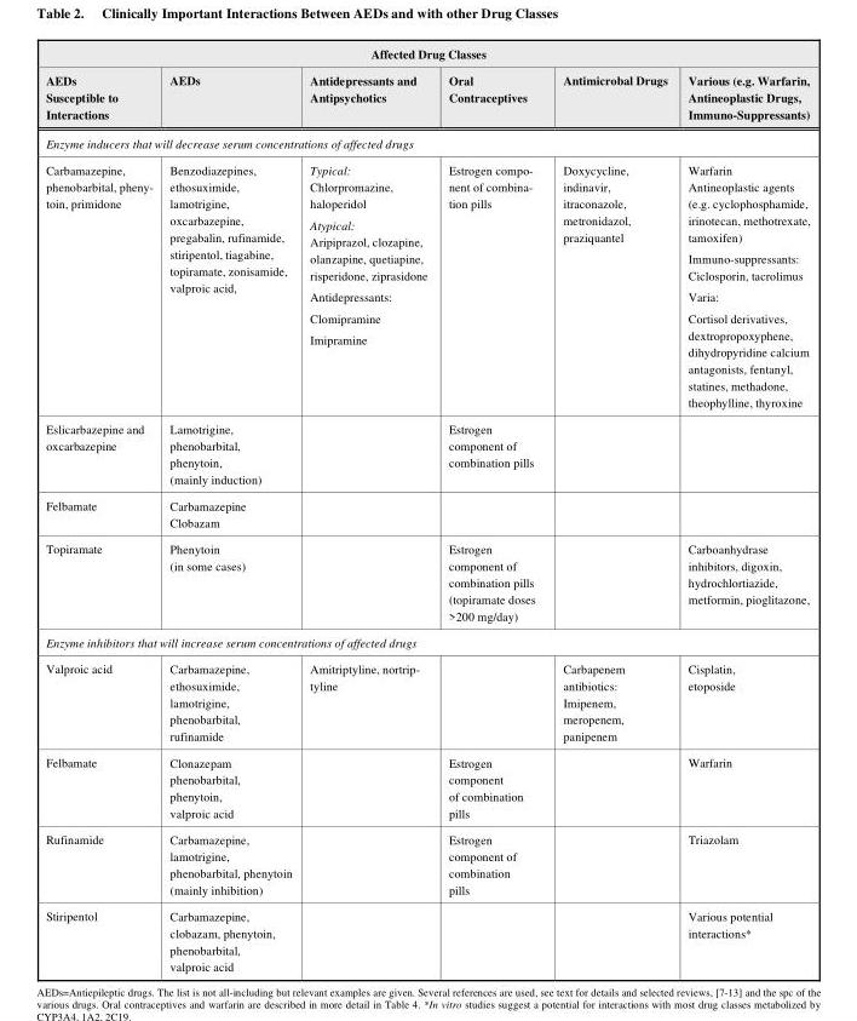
<table><thead><tr><td colspan="6">Affected Drug Classes</td></tr><tr><td>AEDs Susceptible to Interactions</td><td>AEDs</td><td>Antidepressants and Antipsychotics</td><td>Oral Contraceptives</td><td>Antimicrobal Drugs</td><td>Various (e.g. Warfarin, Antineoplastic Drugs, Immuno-Suppressants)</td></tr></thead><tbody><tr><td colspan="6">Enzyme inducers that will decrease serum concentrations of affected drugs</td></tr><tr><td>Carbamazepine, phenobarbital, pheny- toin, primidone</td><td>Benzodiazepines, ethosuximide, lamotrigine, oxcarbazepine, pregabalin, rufinamide, stiripentol, tiagabine, topiramate, zonisamide, valproic acid,</td><td>Typical: Chlorpromazine, haloperidol Atypical: Aripiprazol, clozapine, olanzapine, quetiapine, risperidone, ziprasidone Antidepressants: Clomipramine Imipramine</td><td>Estrogen compo- nent of combina- tion pills</td><td>Doxycycline, indinavir, itraconazole, metronidazol, praziquantel</td><td>Warfarin Antineoplastic agents (e.g. cyclophosphamide, irinotecan, methotrexate, tamoxifen) Immuno-suppressants: Ciclosporin, tacrolimus Varia: Cortisol derivatives, dextropropoxyphene, dihydropyridine calcium antagonists, fentanyl, statines, methadone, theophylline, thyroxine</td></tr><tr><td>Eslicarbazepine and oxcarbazepine</td><td>Lamotrigine, phenobarbital, phenytoin, (mainly induction)</td><td></td><td>Estrogen component of combination pills</td><td></td><td></td></tr><tr><td>Felbamate</td><td>Carbamazepine Clobazam</td><td></td><td></td><td></td><td></td></tr><tr><td>Topiramate</td><td>Phenytoin (in some cases)</td><td></td><td>Estrogen component of combination pills (topiramate doses &gt;200 mg/day)</td><td></td><td>Carboanhydrase inhibitors, digoxin, hydrochlortiazide, metformin, pioglitazone,</td></tr><tr><td colspan="6">Enzyme inhibitors that will increase serum concentrations of affected drugs</td></tr><tr><td>Valproic acid</td><td>Carbamazepine, ethosuximide, lamotrigine, phenobarbital, rufinamide</td><td>Amitriptyline, nortrip- tyline</td><td></td><td>Carbapenem antibiotics: Imipenem, meropenem, panipenem</td><td>Cisplatin, etoposide</td></tr><tr><td>Felbamate</td><td>Clonazepam phenobarbital, phenytoin, valproic acid</td><td></td><td>Estrogen component of combination pills</td><td></td><td>Warfarin</td></tr><tr><td>Rufinamide</td><td>Carbamazepine, lamotrigine, phenobarbital, phenytoin (mainly inhibition)</td><td></td><td>Estrogen component of combination pills</td><td></td><td>Triazolam</td></tr><tr><td>Stiripentol</td><td>Carbamazepine, clobazam, phenytoin, phenobarbital, valproic acid</td><td></td><td></td><td></td><td>Various potential interactions*</td></tr></tbody></table>